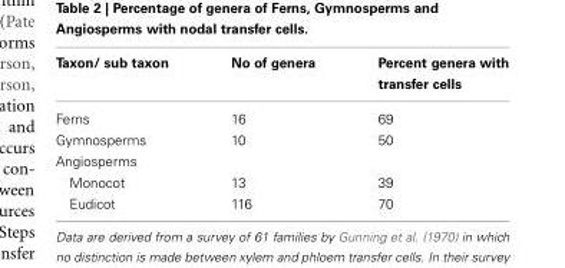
<table><thead><tr><td>Taxon/ sub taxon</td><td>No of genera</td><td>Percent genera with transfer cells</td></tr></thead><tbody><tr><td>Ferns</td><td>16</td><td>69</td></tr><tr><td>Gymnosperms</td><td>10</td><td>50</td></tr><tr><td colspan="3">Angiosperms</td></tr><tr><td>Monocot</td><td>13</td><td>39</td></tr><tr><td>Eudicot</td><td>116</td><td>70</td></tr></tbody></table>